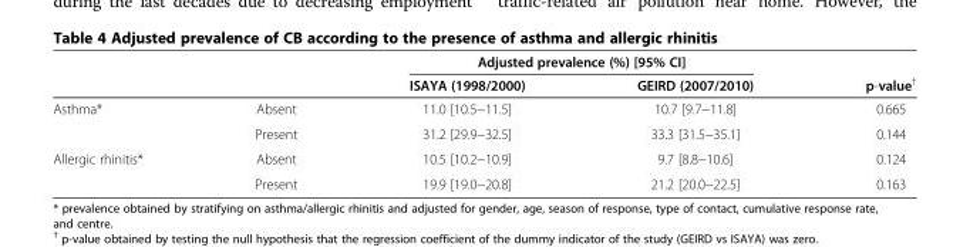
<table><thead><tr><td rowspan="2"></td><td rowspan="2"></td><td colspan="2">Adjusted prevalence (%) [95% CI]</td><td rowspan="2">p-value<sup>†</sup></td></tr><tr><td>ISAYA (1998/2000)</td><td>GEIRD (2007/2010)</td></tr></thead><tbody><tr><td rowspan="2">Asthma*</td><td>Absent</td><td>11.0 [10.5−11.5]</td><td>10.7 [9.7−11.8]</td><td>0.665</td></tr><tr><td>Present</td><td>31.2 [29.9−32.5]</td><td>33.3 [31.5−35.1]</td><td>0.144</td></tr><tr><td rowspan="2">Allergic rhinitis*</td><td>Absent</td><td>10.5 [10.2−10.9]</td><td>9.7 [8.8−10.6]</td><td>0.124</td></tr><tr><td>Present</td><td>19.9 [19.0−20.8]</td><td>21.2 [20.0−22.5]</td><td>0.163</td></tr></tbody></table>